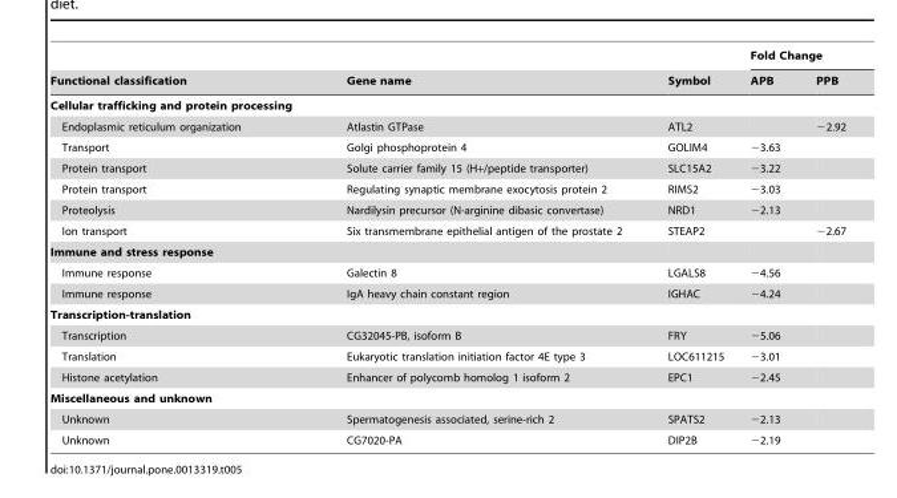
<table><thead><tr><td rowspan="2">Functional classification</td><td rowspan="2">Gene name</td><td rowspan="2">Symbol</td><td colspan="2">Fold Change</td></tr><tr><td>APB</td><td>PPB</td></tr></thead><tbody><tr><td colspan="5">Cellular trafficking and protein processing</td></tr><tr><td>Endoplasmic reticulum organization</td><td>Atlastin GTPase</td><td>ATL2</td><td></td><td>−2.92</td></tr><tr><td>Transport</td><td>Golgi phosphoprotein 4</td><td>GOLIM4</td><td>−3.63</td><td></td></tr><tr><td>Protein transport</td><td>Solute carrier family 15 (H+/peptide transporter)</td><td>SLC15A2</td><td>−3.22</td><td></td></tr><tr><td>Protein transport</td><td>Regulating synaptic membrane exocytosis protein 2</td><td>RIMS2</td><td>−3.03</td><td></td></tr><tr><td>Proteolysis</td><td>Nardilysin precursor (N-arginine dibasic convertase)</td><td>NRD1</td><td>−2.13</td><td></td></tr><tr><td>Ion transport</td><td>Six transmembrane epithelial antigen of the prostate 2</td><td>STEAP2</td><td></td><td>−2.67</td></tr><tr><td colspan="5">Immune and stress response</td></tr><tr><td>Immune response</td><td>Galectin 8</td><td>LGALS8</td><td>−4.56</td><td></td></tr><tr><td>Immune response</td><td>IgA heavy chain constant region</td><td>IGHAC</td><td>−4.24</td><td></td></tr><tr><td colspan="5">Transcription-translation</td></tr><tr><td>Transcription</td><td>CG32045-PB, isoform B</td><td>FRY</td><td>−5.06</td><td></td></tr><tr><td>Translation</td><td>Eukaryotic translation initiation factor 4E type 3</td><td>LOC611215</td><td>−3.01</td><td></td></tr><tr><td>Histone acetylation</td><td>Enhancer of polycomb homolog 1 isoform 2</td><td>EPC1</td><td>−2.45</td><td></td></tr><tr><td colspan="5">Miscellaneous and unknown</td></tr><tr><td>Unknown</td><td>Spermatogenesis associated, serine-rich 2</td><td>SPATS2</td><td>−2.13</td><td></td></tr><tr><td>Unknown</td><td>CG7020-PA</td><td>DIP2B</td><td>−2.19</td><td></td></tr></tbody></table>